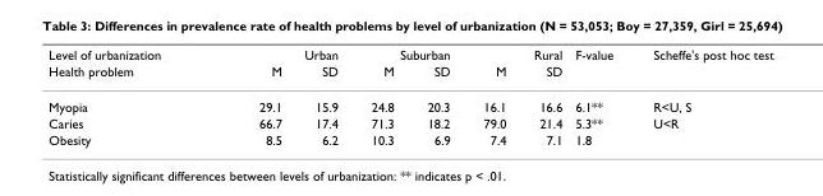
<table><thead><tr><td rowspan="2">Level of urbanization Health problem</td><td colspan="2">Urban</td><td colspan="2">Suburban</td><td colspan="2">Rural</td><td rowspan="2">F-value</td><td rowspan="2">Scheffe&#x27;s post hoc test</td></tr><tr><td>M</td><td>SD</td><td>M</td><td>SD</td><td>M</td><td>SD</td></tr></thead><tbody><tr><td>Myopia</td><td>29.1</td><td>15.9</td><td>24.8</td><td>20.3</td><td>16.1</td><td>16.6</td><td>6.1**</td><td>R&lt;U, S</td></tr><tr><td>Caries</td><td>66.7</td><td>17.4</td><td>71.3</td><td>18.2</td><td>79.0</td><td>21.4</td><td>5.3**</td><td>U&lt;R</td></tr><tr><td>Obesity</td><td>8.5</td><td>6.2</td><td>10.3</td><td>6.9</td><td>7.4</td><td>7.1</td><td>1.8</td><td></td></tr></tbody></table>